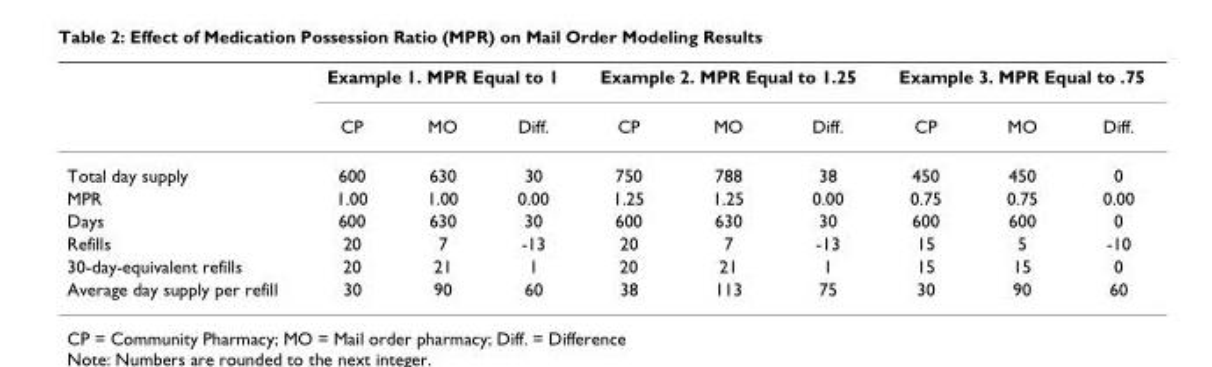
<table><thead><tr><td rowspan="2"></td><td colspan="3">Example 1. MPR Equal to 1</td><td colspan="3">Example 2. MPR Equal to 1.25</td><td colspan="3">Example 3. MPR Equal to .75</td></tr><tr><td>CP</td><td>MO</td><td>Diff.</td><td>CP</td><td>MO</td><td>Diff.</td><td>CP</td><td>MO</td><td>Diff.</td></tr></thead><tbody><tr><td>Total day supply</td><td>600</td><td>630</td><td>30</td><td>750</td><td>788</td><td>38</td><td>450</td><td>450</td><td>0</td></tr><tr><td>MPR</td><td>1.00</td><td>1.00</td><td>0.00</td><td>1.25</td><td>1.25</td><td>0.00</td><td>0.75</td><td>0.75</td><td>0.00</td></tr><tr><td>Days</td><td>600</td><td>630</td><td>30</td><td>600</td><td>630</td><td>30</td><td>600</td><td>600</td><td>0</td></tr><tr><td>Refills</td><td>20</td><td>7</td><td>-13</td><td>20</td><td>7</td><td>-13</td><td>15</td><td>5</td><td>-10</td></tr><tr><td>30-day-equivalent refills</td><td>20</td><td>21</td><td>1</td><td>20</td><td>21</td><td>1</td><td>15</td><td>15</td><td>0</td></tr><tr><td>Average day supply per refill</td><td>30</td><td>90</td><td>60</td><td>38</td><td>113</td><td>75</td><td>30</td><td>90</td><td>60</td></tr></tbody></table>